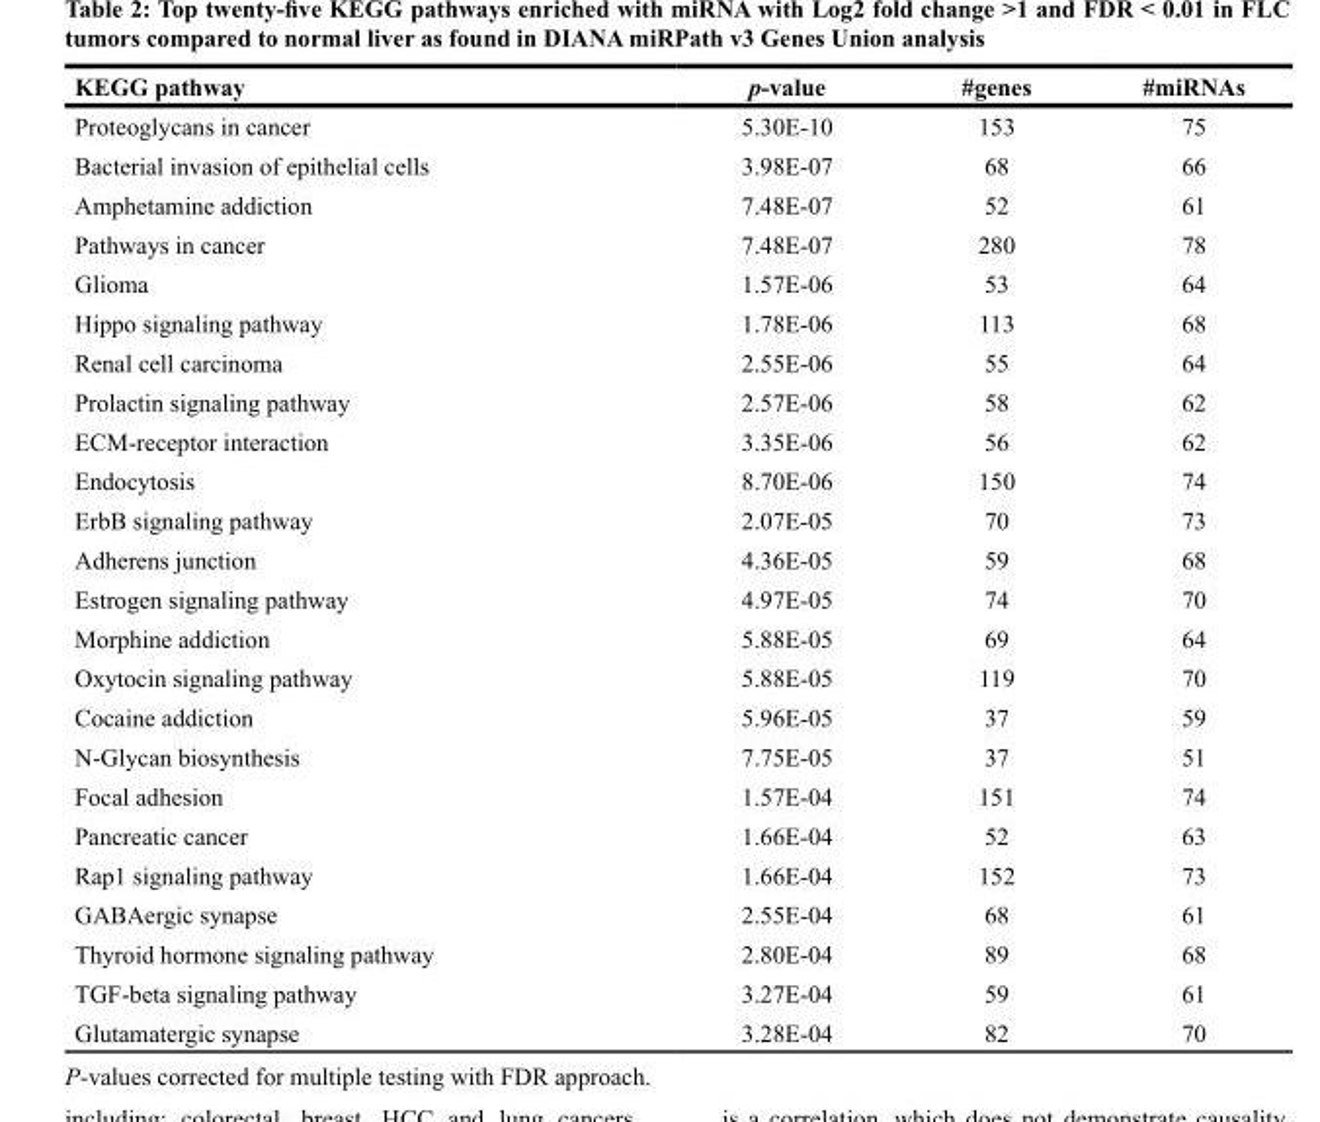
<table><thead><tr><td>KEGG pathway</td><td>p-value</td><td>#genes</td><td>#miRNAs</td></tr></thead><tbody><tr><td>Proteoglycans in cancer</td><td>5.30E-10</td><td>153</td><td>75</td></tr><tr><td>Bacterial invasion of epithelial cells</td><td>3.98E-07</td><td>68</td><td>66</td></tr><tr><td>Amphetamine addiction</td><td>7.48E-07</td><td>52</td><td>61</td></tr><tr><td>Pathways in cancer</td><td>7.48E-07</td><td>280</td><td>78</td></tr><tr><td>Glioma</td><td>1.57E-06</td><td>53</td><td>64</td></tr><tr><td>Hippo signaling pathway</td><td>1.78E-06</td><td>113</td><td>68</td></tr><tr><td>Renal cell carcinoma</td><td>2.55E-06</td><td>55</td><td>64</td></tr><tr><td>Prolactin signaling pathway</td><td>2.57E-06</td><td>58</td><td>62</td></tr><tr><td>ECM-receptor interaction</td><td>3.35E-06</td><td>56</td><td>62</td></tr><tr><td>Endocytosis</td><td>8.70E-06</td><td>150</td><td>74</td></tr><tr><td>ErbB signaling pathway</td><td>2.07E-05</td><td>70</td><td>73</td></tr><tr><td>Adherens junction</td><td>4.36E-05</td><td>59</td><td>68</td></tr><tr><td>Estrogen signaling pathway</td><td>4.97E-05</td><td>74</td><td>70</td></tr><tr><td>Morphine addiction</td><td>5.88E-05</td><td>69</td><td>64</td></tr><tr><td>Oxytocin signaling pathway</td><td>5.88E-05</td><td>119</td><td>70</td></tr><tr><td>Cocaine addiction</td><td>5.96E-05</td><td>37</td><td>59</td></tr><tr><td>N-Glycan biosynthesis</td><td>7.75E-05</td><td>37</td><td>51</td></tr><tr><td>Focal adhesion</td><td>1.57E-04</td><td>151</td><td>74</td></tr><tr><td>Pancreatic cancer</td><td>1.66E-04</td><td>52</td><td>63</td></tr><tr><td>Rap1 signaling pathway</td><td>1.66E-04</td><td>152</td><td>73</td></tr><tr><td>GABAergic synapse</td><td>2.55E-04</td><td>68</td><td>61</td></tr><tr><td>Thyroid hormone signaling pathway</td><td>2.80E-04</td><td>89</td><td>68</td></tr><tr><td>TGF-beta signaling pathway</td><td>3.27E-04</td><td>59</td><td>61</td></tr><tr><td>Glutamatergic synapse</td><td>3.28E-04</td><td>82</td><td>70</td></tr></tbody></table>